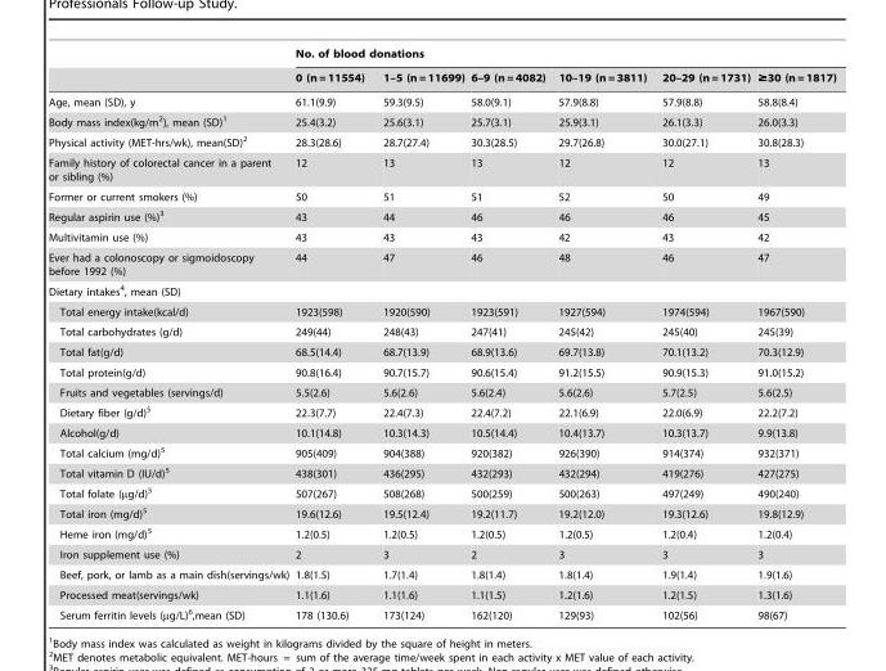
<table><thead><tr><td rowspan="2"></td><td colspan="6">No. of blood donations</td></tr><tr><td>0 (n = 11554)</td><td>1–5 (n = 11699)</td><td>6–9 (n = 4082)</td><td>10–19 (n = 3811)</td><td>20–29 (n = 1731)</td><td>≥30 (n = 1817)</td></tr></thead><tbody><tr><td>Age, mean (SD), y</td><td>61.1(9.9)</td><td>59.3(9.5)</td><td>58.0(9.1)</td><td>57.9(8.8)</td><td>57.9(8.8)</td><td>58.8(8.4)</td></tr><tr><td>Body mass index(kg/m<sup>2</sup>), mean (SD)<sup>1</sup></td><td>25.4(3.2)</td><td>25.6(3.1)</td><td>25.7(3.1)</td><td>25.9(3.1)</td><td>26.1(3.3)</td><td>26.0(3.3)</td></tr><tr><td>Physical activity (MET-hrs/wk), mean(SD)<sup>2</sup></td><td>28.3(28.6)</td><td>28.7(27.4)</td><td>30.3(28.5)</td><td>29.7(26.8)</td><td>30.0(27.1)</td><td>30.8(28.3)</td></tr><tr><td>Family history of colorectal cancer in a parent or sibling (%)</td><td>12</td><td>13</td><td>13</td><td>12</td><td>12</td><td>13</td></tr><tr><td>Former or current smokers (%)</td><td>50</td><td>51</td><td>51</td><td>52</td><td>50</td><td>49</td></tr><tr><td>Regular aspirin use (%)<sup>3</sup></td><td>43</td><td>44</td><td>46</td><td>46</td><td>46</td><td>45</td></tr><tr><td>Multivitamin use (%)</td><td>43</td><td>43</td><td>43</td><td>42</td><td>43</td><td>42</td></tr><tr><td>Ever had a colonoscopy or sigmoidoscopy before 1992 (%)</td><td>44</td><td>47</td><td>46</td><td>48</td><td>46</td><td>47</td></tr><tr><td colspan="7">Dietary intakes<sup>4</sup>, mean (SD)</td></tr><tr><td>Total energy intake(kcal/d)</td><td>1923(598)</td><td>1920(590)</td><td>1923(591)</td><td>1927(594)</td><td>1974(594)</td><td>1967(590)</td></tr><tr><td>Total carbohydrates (g/d)</td><td>249(44)</td><td>248(43)</td><td>247(41)</td><td>245(42)</td><td>245(40)</td><td>245(39)</td></tr><tr><td>Total fat(g/d)</td><td>68.5(14.4)</td><td>68.7(13.9)</td><td>68.9(13.6)</td><td>69.7(13.8)</td><td>70.1(13.2)</td><td>70.3(12.9)</td></tr><tr><td>Total protein(g/d)</td><td>90.8(16.4)</td><td>90.7(15.7)</td><td>90.6(15.4)</td><td>91.2(15.5)</td><td>90.9(15.3)</td><td>91.0(15.2)</td></tr><tr><td>Fruits and vegetables (servings/d)</td><td>5.5(2.6)</td><td>5.6(2.6)</td><td>5.6(2.4)</td><td>5.6(2.6)</td><td>5.7(2.5)</td><td>5.6(2.5)</td></tr><tr><td>Dietary fiber (g/d)<sup>5</sup></td><td>22.3(7.7)</td><td>22.4(7.3)</td><td>22.4(7.2)</td><td>22.1(6.9)</td><td>22.0(6.9)</td><td>22.2(7.2)</td></tr><tr><td>Alcohol(g/d)</td><td>10.1(14.8)</td><td>10.3(14.3)</td><td>10.5(14.4)</td><td>10.4(13.7)</td><td>10.3(13.7)</td><td>9.9(13.8)</td></tr><tr><td>Total calcium (mg/d)<sup>5</sup></td><td>905(409)</td><td>904(388)</td><td>920(382)</td><td>926(390)</td><td>914(374)</td><td>932(371)</td></tr><tr><td>Total vitamin D (IU/d)<sup>5</sup></td><td>438(301)</td><td>436(295)</td><td>432(293)</td><td>432(294)</td><td>419(276)</td><td>427(275)</td></tr><tr><td>Total folate (µg/d)<sup>5</sup></td><td>507(267)</td><td>508(268)</td><td>500(259)</td><td>500(263)</td><td>497(249)</td><td>490(240)</td></tr><tr><td>Total iron (mg/d)<sup>5</sup></td><td>19.6(12.6)</td><td>19.5(12.4)</td><td>19.2(11.7)</td><td>19.2(12.0)</td><td>19.3(12.6)</td><td>19.8(12.9)</td></tr><tr><td>Heme iron (mg/d)<sup>5</sup></td><td>1.2(0.5)</td><td>1.2(0.5)</td><td>1.2(0.5)</td><td>1.2(0.5)</td><td>1.2(0.4)</td><td>1.2(0.4)</td></tr><tr><td>Iron supplement use (%)</td><td>2</td><td>3</td><td>2</td><td>3</td><td>3</td><td>3</td></tr><tr><td>Beef, pork, or lamb as a main dish(servings/wk)</td><td>1.8(1.5)</td><td>1.7(1.4)</td><td>1.8(1.4)</td><td>1.8(1.4)</td><td>1.9(1.4)</td><td>1.9(1.6)</td></tr><tr><td>Processed meat(servings/wk)</td><td>1.1(1.6)</td><td>1.1(1.6)</td><td>1.1(1.5)</td><td>1.2(1.6)</td><td>1.2(1.5)</td><td>1.3(1.6)</td></tr><tr><td>Serum ferritin levels (µg/L)<sup>6</sup>,mean (SD)</td><td>178 (130.6)</td><td>173(124)</td><td>162(120)</td><td>129(93)</td><td>102(56)</td><td>98(67)</td></tr></tbody></table>